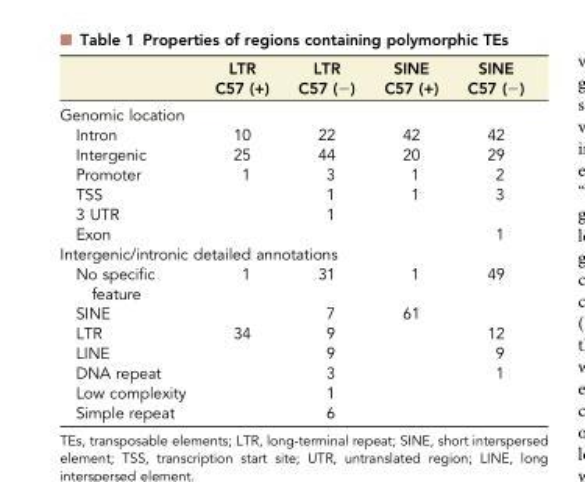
<table><thead><tr><td></td><td>LTR C57 (+)</td><td>LTR C57 (−)</td><td>SINE C57 (+)</td><td>SINE C57 (−)</td></tr></thead><tbody><tr><td colspan="5">Genomic location</td></tr><tr><td>Intron</td><td>10</td><td>22</td><td>42</td><td>42</td></tr><tr><td>Intergenic</td><td>25</td><td>44</td><td>20</td><td>29</td></tr><tr><td>Promoter</td><td>1</td><td>3</td><td>1</td><td>2</td></tr><tr><td>TSS</td><td></td><td>1</td><td>1</td><td>3</td></tr><tr><td>3 UTR</td><td></td><td>1</td><td></td><td></td></tr><tr><td>Exon</td><td></td><td></td><td></td><td>1</td></tr><tr><td colspan="5">Intergenic/intronic detailed annotations</td></tr><tr><td>No specific feature</td><td>1</td><td>31</td><td>1</td><td>49</td></tr><tr><td>SINE</td><td></td><td>7</td><td>61</td><td></td></tr><tr><td>LTR</td><td>34</td><td>9</td><td></td><td>12</td></tr><tr><td>LINE</td><td></td><td>9</td><td></td><td>9</td></tr><tr><td>DNA repeat</td><td></td><td>3</td><td></td><td>1</td></tr><tr><td>Low complexity</td><td></td><td>1</td><td></td><td></td></tr><tr><td>Simple repeat</td><td></td><td>6</td><td></td><td></td></tr></tbody></table>